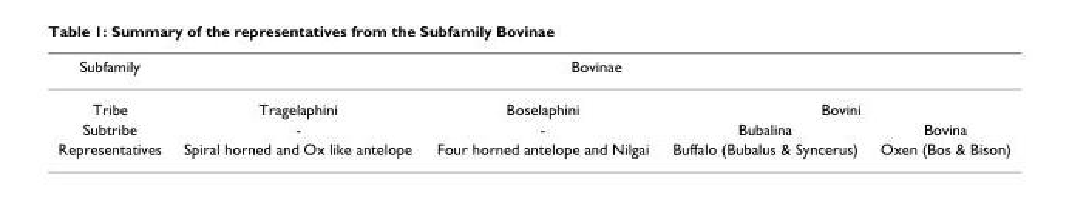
<table><thead><tr><td rowspan="3">Subfamily Tribe Subtribe</td><td colspan="4">Bovinae</td></tr><tr><td rowspan="2">Tragelaphini -</td><td rowspan="2">Boselaphini -</td><td colspan="2">Bovini</td></tr><tr><td>Bubalina</td><td>Bovina</td></tr></thead><tbody><tr><td>Representatives</td><td>Spiral horned and Ox like antelope</td><td>Four horned antelope and Nilgai</td><td>Buffalo (Bubalus &amp; Syncerus)</td><td>Oxen (Bos &amp; Bison)</td></tr></tbody></table>